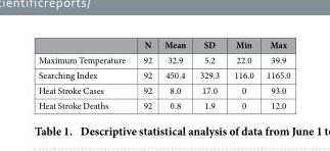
<table><thead><tr><td></td><td>N</td><td>Mean</td><td>SD</td><td>Min</td><td>Max</td></tr></thead><tbody><tr><td>Maximum Temperature</td><td>92</td><td>32.9</td><td>5.2</td><td>22.0</td><td>39.9</td></tr><tr><td>Searching Index</td><td>92</td><td>450.4</td><td>329.3</td><td>116.0</td><td>1165.0</td></tr><tr><td>Heat Stroke Cases</td><td>92</td><td>8.0</td><td>17.0</td><td>0</td><td>93.0</td></tr><tr><td>Heat Stroke Deaths</td><td>92</td><td>0.8</td><td>1.9</td><td>0</td><td>12.0</td></tr></tbody></table>